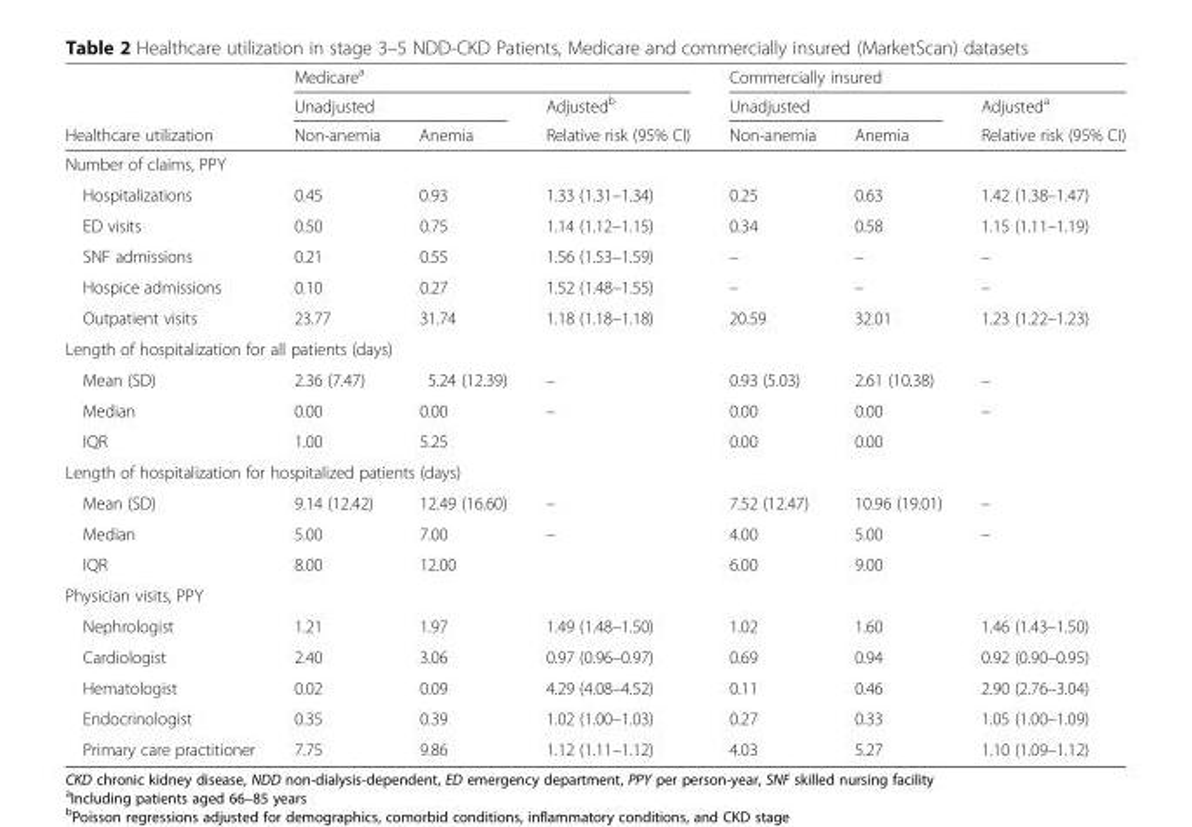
<table><thead><tr><td rowspan="3">Healthcare utilization</td><td colspan="3">Medicare<sup>a</sup></td><td colspan="3">Commercially insured</td></tr><tr><td colspan="2">Unadjusted</td><td rowspan="2">Adjusted<sup>b</sup> Relative risk (95% CI)</td><td colspan="2">Unadjusted</td><td rowspan="2">Adjusted<sup>a</sup> Relative risk (95% CI)</td></tr><tr><td>Non-anemia</td><td>Anemia</td><td>Non-anemia</td><td>Anemia</td></tr></thead><tbody><tr><td colspan="7">Number of claims, PPY</td></tr><tr><td>Hospitalizations</td><td>0.45</td><td>0.93</td><td>1.33 (1.31–1.34)</td><td>0.25</td><td>0.63</td><td>1.42 (1.38–1.47)</td></tr><tr><td>ED visits</td><td>0.50</td><td>0.75</td><td>1.14 (1.12–1.15)</td><td>0.34</td><td>0.58</td><td>1.15 (1.11–1.19)</td></tr><tr><td>SNF admissions</td><td>0.21</td><td>0.55</td><td>1.56 (1.53–1.59)</td><td>–</td><td>–</td><td>–</td></tr><tr><td>Hospice admissions</td><td>0.10</td><td>0.27</td><td>1.52 (1.48–1.55)</td><td>–</td><td>–</td><td>–</td></tr><tr><td>Outpatient visits</td><td>23.77</td><td>31.74</td><td>1.18 (1.18–1.18)</td><td>20.59</td><td>32.01</td><td>1.23 (1.22–1.23)</td></tr><tr><td colspan="7">Length of hospitalization for all patients (days)</td></tr><tr><td>Mean (SD)</td><td>2.36 (7.47)</td><td>5.24 (12.39)</td><td>–</td><td>0.93 (5.03)</td><td>2.61 (10.38)</td><td>–</td></tr><tr><td>Median</td><td>0.00</td><td>0.00</td><td>–</td><td>0.00</td><td>0.00</td><td>–</td></tr><tr><td>IQR</td><td>1.00</td><td>5.25</td><td></td><td>0.00</td><td>0.00</td><td></td></tr><tr><td colspan="7">Length of hospitalization for hospitalized patients (days)</td></tr><tr><td>Mean (SD)</td><td>9.14 (12.42)</td><td>12.49 (16.60)</td><td>–</td><td>7.52 (12.47)</td><td>10.96 (19.01)</td><td>–</td></tr><tr><td>Median</td><td>5.00</td><td>7.00</td><td>–</td><td>4.00</td><td>5.00</td><td>–</td></tr><tr><td>IQR</td><td>8.00</td><td>12.00</td><td></td><td>6.00</td><td>9.00</td><td></td></tr><tr><td colspan="7">Physician visits, PPY</td></tr><tr><td>Nephrologist</td><td>1.21</td><td>1.97</td><td>1.49 (1.48–1.50)</td><td>1.02</td><td>1.60</td><td>1.46 (1.43–1.50)</td></tr><tr><td>Cardiologist</td><td>2.40</td><td>3.06</td><td>0.97 (0.96–0.97)</td><td>0.69</td><td>0.94</td><td>0.92 (0.90–0.95)</td></tr><tr><td>Hematologist</td><td>0.02</td><td>0.09</td><td>4.29 (4.08–4.52)</td><td>0.11</td><td>0.46</td><td>2.90 (2.76–3.04)</td></tr><tr><td>Endocrinologist</td><td>0.35</td><td>0.39</td><td>1.02 (1.00–1.03)</td><td>0.27</td><td>0.33</td><td>1.05 (1.00–1.09)</td></tr><tr><td>Primary care practitioner</td><td>7.75</td><td>9.86</td><td>1.12 (1.11–1.12)</td><td>4.03</td><td>5.27</td><td>1.10 (1.09–1.12)</td></tr></tbody></table>